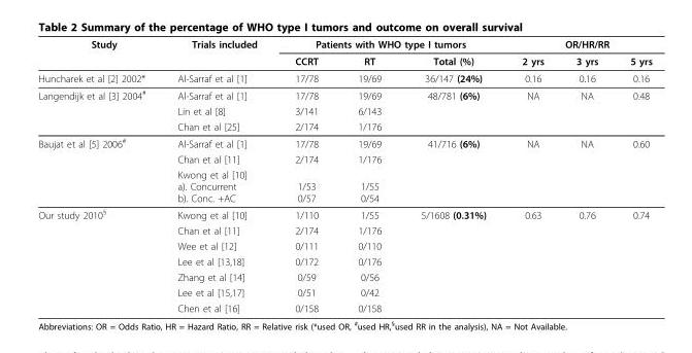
<table><thead><tr><td rowspan="2">Study</td><td rowspan="2">Trials included</td><td colspan="3">Patients with WHO type I tumors</td><td colspan="3">OR/HR/RR</td></tr><tr><td>CCRT</td><td>RT</td><td>Total (%)</td><td>2 yrs</td><td>3 yrs</td><td>5 yrs</td></tr></thead><tbody><tr><td>Huncharek et al [2] 2002*</td><td>Al-Sarraf et al [1]</td><td>17/78</td><td>19/69</td><td>36/147 (24%)</td><td>0.16</td><td>0.16</td><td>0.16</td></tr><tr><td rowspan="3">Langendijk et al [3] 2004<sup>#</sup></td><td>Al-Sarraf et al [1]</td><td>17/78</td><td>19/69</td><td>48/781 (6%)</td><td>NA</td><td>NA</td><td>0.48</td></tr><tr><td>Lin et al [8]</td><td>3/141</td><td>6/143</td><td></td><td></td><td></td><td></td></tr><tr><td>Chan et al [25]</td><td>2/174</td><td>1/176</td><td></td><td></td><td></td><td></td></tr><tr><td rowspan="3">Baujat et al [5] 2006<sup>#</sup></td><td>Al-Sarraf et al [1]</td><td>17/78</td><td>19/69</td><td>41/716 (6%)</td><td>NA</td><td>NA</td><td>0.60</td></tr><tr><td>Chan et al [11]</td><td>2/174</td><td>1/176</td><td></td><td></td><td></td><td></td></tr><tr><td>Kwong et al [10] a). Concurrent b). Conc. +AC</td><td>1/53 0/57</td><td>1/55 0/54</td><td></td><td></td><td></td><td></td></tr><tr><td rowspan="7">Our study 2010<sup>§</sup></td><td>Kwong et al [10]</td><td>1/110</td><td>1/55</td><td>5/1608 (0.31%)</td><td>0.63</td><td>0.76</td><td>0.74</td></tr><tr><td>Chan et al [11]</td><td>2/174</td><td>1/176</td><td></td><td></td><td></td><td></td></tr><tr><td>Wee et al [12]</td><td>0/111</td><td>0/110</td><td></td><td></td><td></td><td></td></tr><tr><td>Lee et al [13,18]</td><td>0/172</td><td>0/176</td><td></td><td></td><td></td><td></td></tr><tr><td>Zhang et al [14]</td><td>0/59</td><td>0/56</td><td></td><td></td><td></td><td></td></tr><tr><td>Lee et al [15,17]</td><td>0/51</td><td>0/42</td><td></td><td></td><td></td><td></td></tr><tr><td>Chen et al [16]</td><td>0/158</td><td>0/158</td><td></td><td></td><td></td><td></td></tr></tbody></table>